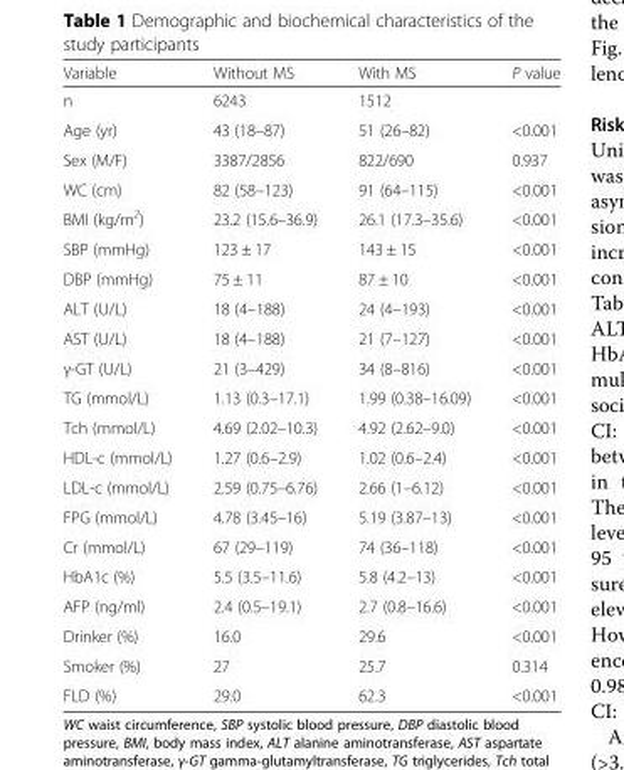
<table><thead><tr><td>Variable</td><td>Without MS</td><td>With MS</td><td>P value</td></tr></thead><tbody><tr><td>n</td><td>6243</td><td>1512</td><td></td></tr><tr><td>Age (yr)</td><td>43 (18–87)</td><td>51 (26–82)</td><td>&lt;0.001</td></tr><tr><td>Sex (M/F)</td><td>3387/2856</td><td>822/690</td><td>0.937</td></tr><tr><td>WC (cm)</td><td>82 (58–123)</td><td>91 (64–115)</td><td>&lt;0.001</td></tr><tr><td>BMI (kg/m<sup>2</sup>)</td><td>23.2 (15.6–36.9)</td><td>26.1 (17.3–35.6)</td><td>&lt;0.001</td></tr><tr><td>SBP (mmHg)</td><td>123 ± 17</td><td>143 ± 15</td><td>&lt;0.001</td></tr><tr><td>DBP (mmHg)</td><td>75 ± 11</td><td>87 ± 10</td><td>&lt;0.001</td></tr><tr><td>ALT (U/L)</td><td>18 (4–188)</td><td>24 (4–193)</td><td>&lt;0.001</td></tr><tr><td>AST (U/L)</td><td>18 (4–188)</td><td>21 (7–127)</td><td>&lt;0.001</td></tr><tr><td>γ-GT (U/L)</td><td>21 (3–429)</td><td>34 (8–816)</td><td>&lt;0.001</td></tr><tr><td>TG (mmol/L)</td><td>1.13 (0.3–17.1)</td><td>1.99 (0.38–16.09)</td><td>&lt;0.001</td></tr><tr><td>Tch (mmol/L)</td><td>4.69 (2.02–10.3)</td><td>4.92 (2.62–9.0)</td><td>&lt;0.001</td></tr><tr><td>HDL-c (mmol/L)</td><td>1.27 (0.6–2.9)</td><td>1.02 (0.6–2.4)</td><td>&lt;0.001</td></tr><tr><td>LDL-c (mmol/L)</td><td>2.59 (0.75–6.76)</td><td>2.66 (1–6.12)</td><td>&lt;0.001</td></tr><tr><td>FPG (mmol/L)</td><td>4.78 (3.45–16)</td><td>5.19 (3.87–13)</td><td>&lt;0.001</td></tr><tr><td>Cr (mmol/L)</td><td>67 (29–119)</td><td>74 (36–118)</td><td>&lt;0.001</td></tr><tr><td>HbA1c (%)</td><td>5.5 (3.5–11.6)</td><td>5.8 (4.2–13)</td><td>&lt;0.001</td></tr><tr><td>AFP (ng/ml)</td><td>2.4 (0.5–19.1)</td><td>2.7 (0.8–16.6)</td><td>&lt;0.001</td></tr><tr><td>Drinker (%)</td><td>16.0</td><td>29.6</td><td>&lt;0.001</td></tr><tr><td>Smoker (%)</td><td>27</td><td>25.7</td><td>0.314</td></tr><tr><td>FLD (%)</td><td>29.0</td><td>62.3</td><td>&lt;0.001</td></tr></tbody></table>